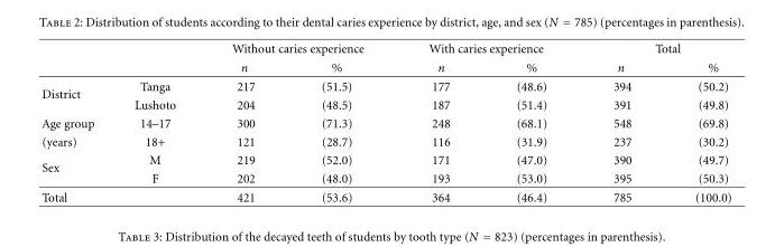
<table><thead><tr><td rowspan="2"></td><td rowspan="2"></td><td colspan="2">Without caries experience</td><td colspan="2">With caries experience</td><td colspan="2">Total</td></tr><tr><td>n</td><td>%</td><td>n</td><td>%</td><td>n</td><td>%</td></tr></thead><tbody><tr><td rowspan="2">District</td><td>Tanga</td><td>217</td><td>(51.5)</td><td>177</td><td>(48.6)</td><td>394</td><td>(50.2)</td></tr><tr><td>Lushoto</td><td>204</td><td>(48.5)</td><td>187</td><td>(51.4)</td><td>391</td><td>(49.8)</td></tr><tr><td>Age group</td><td>14–17</td><td>300</td><td>(71.3)</td><td>248</td><td>(68.1)</td><td>548</td><td>(69.8)</td></tr><tr><td>(years)</td><td>18+</td><td>121</td><td>(28.7)</td><td>116</td><td>(31.9)</td><td>237</td><td>(30.2)</td></tr><tr><td rowspan="2">Sex</td><td>M</td><td>219</td><td>(52.0)</td><td>171</td><td>(47.0)</td><td>390</td><td>(49.7)</td></tr><tr><td>F</td><td>202</td><td>(48.0)</td><td>193</td><td>(53.0)</td><td>395</td><td>(50.3)</td></tr><tr><td>Total</td><td></td><td>421</td><td>(53.6)</td><td>364</td><td>(46.4)</td><td>785</td><td>(100.0)</td></tr></tbody></table>